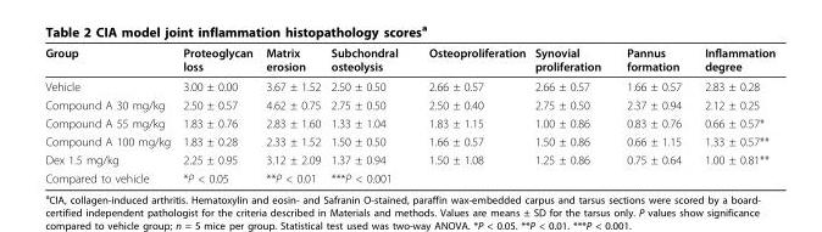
<table><thead><tr><td>Group</td><td>Proteoglycan loss</td><td>Matrix erosion</td><td>Subchondral osteolysis</td><td>Osteoproliferation</td><td>Synovial proliferation</td><td>Pannus formation</td><td>Inflammation degree</td></tr></thead><tbody><tr><td>Vehicle</td><td>3.00 ± 0.00</td><td>3.67 ± 1.52</td><td>2.50 ± 0.50</td><td>2.66 ± 0.57</td><td>2.66 ± 0.57</td><td>1.66 ± 0.57</td><td>2.83 ± 0.28</td></tr><tr><td>Compound A 30 mg/kg</td><td>2.50 ± 0.57</td><td>4.62 ± 0.75</td><td>2.75 ± 0.50</td><td>2.50 ± 0.40</td><td>2.75 ± 0.50</td><td>2.37 ± 0.94</td><td>2.12 ± 0.25</td></tr><tr><td>Compound A 55 mg/kg</td><td>1.83 ± 0.76</td><td>2.83 ± 1.60</td><td>1.33 ± 1.04</td><td>1.83 ± 1.15</td><td>1.00 ± 0.86</td><td>0.83 ± 0.76</td><td>0.66 ± 0.57*</td></tr><tr><td>Compound A 100 mg/kg</td><td>1.83 ± 0.28</td><td>2.33 ± 1.52</td><td>1.50 ± 0.50</td><td>1.66 ± 0.57</td><td>1.50 ± 0.86</td><td>0.66 ± 1.15</td><td>1.33 ± 0.57**</td></tr><tr><td>Dex 1.5 mg/kg</td><td>2.25 ± 0.95</td><td>3.12 ± 2.09</td><td>1.37 ± 0.94</td><td>1.50 ± 1.08</td><td>1.25 ± 0.86</td><td>0.75 ± 0.64</td><td>1.00 ± 0.81**</td></tr><tr><td>Compared to vehicle</td><td>*P &lt; 0.05</td><td>**P &lt; 0.01</td><td>***P &lt; 0.001</td><td></td><td></td><td></td><td></td></tr></tbody></table>